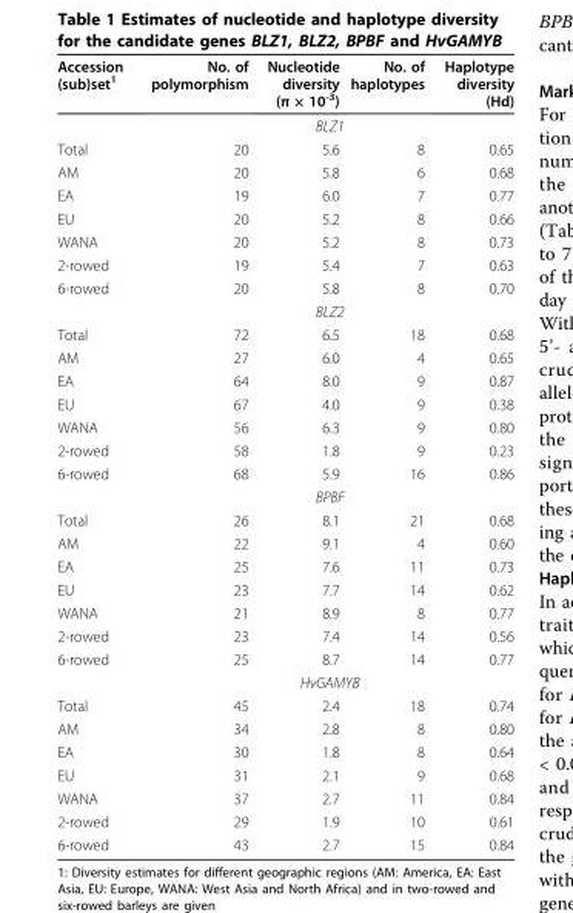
<table><thead><tr><td>Accession (sub)set<sup>1</sup></td><td>No. of polymorphism</td><td>Nucleotide diversity (π × 10<sup>-3</sup>)</td><td>No. of haplotypes</td><td>Haplotype diversity (Hd)</td></tr></thead><tbody><tr><td></td><td colspan="4">BLZ1</td></tr><tr><td>Total</td><td>20</td><td>5.6</td><td>8</td><td>0.65</td></tr><tr><td>AM</td><td>20</td><td>5.8</td><td>6</td><td>0.68</td></tr><tr><td>EA</td><td>19</td><td>6.0</td><td>7</td><td>0.77</td></tr><tr><td>EU</td><td>20</td><td>5.2</td><td>8</td><td>0.66</td></tr><tr><td>WANA</td><td>20</td><td>5.2</td><td>8</td><td>0.73</td></tr><tr><td>2-rowed</td><td>19</td><td>5.4</td><td>7</td><td>0.63</td></tr><tr><td rowspan="2">6-rowed</td><td>20</td><td>5.8</td><td>8</td><td>0.70</td></tr><tr><td colspan="4">BLZ2</td></tr><tr><td>Total</td><td>72</td><td>6.5</td><td>18</td><td>0.68</td></tr><tr><td>AM</td><td>27</td><td>6.0</td><td>4</td><td>0.65</td></tr><tr><td>EA</td><td>64</td><td>8.0</td><td>9</td><td>0.87</td></tr><tr><td>EU</td><td>67</td><td>4.0</td><td>9</td><td>0.38</td></tr><tr><td>WANA</td><td>56</td><td>6.3</td><td>9</td><td>0.80</td></tr><tr><td>2-rowed</td><td>58</td><td>1.8</td><td>9</td><td>0.23</td></tr><tr><td rowspan="2">6-rowed</td><td>68</td><td>5.9</td><td>16</td><td>0.86</td></tr><tr><td colspan="4">BPBF</td></tr><tr><td>Total</td><td>26</td><td>8.1</td><td>21</td><td>0.68</td></tr><tr><td>AM</td><td>22</td><td>9.1</td><td>4</td><td>0.60</td></tr><tr><td>EA</td><td>25</td><td>7.6</td><td>11</td><td>0.73</td></tr><tr><td>EU</td><td>23</td><td>7.7</td><td>14</td><td>0.62</td></tr><tr><td>WANA</td><td>21</td><td>8.9</td><td>8</td><td>0.77</td></tr><tr><td>2-rowed</td><td>23</td><td>7.4</td><td>14</td><td>0.56</td></tr><tr><td rowspan="2">6-rowed</td><td>25</td><td>8.7</td><td>14</td><td>0.77</td></tr><tr><td colspan="4">HvGAMYB</td></tr><tr><td>Total</td><td>45</td><td>2.4</td><td>18</td><td>0.74</td></tr><tr><td>AM</td><td>34</td><td>2.8</td><td>8</td><td>0.80</td></tr><tr><td>EA</td><td>30</td><td>1.8</td><td>8</td><td>0.64</td></tr><tr><td>EU</td><td>31</td><td>2.1</td><td>9</td><td>0.68</td></tr><tr><td>WANA</td><td>37</td><td>2.7</td><td>11</td><td>0.84</td></tr><tr><td>2-rowed</td><td>29</td><td>1.9</td><td>10</td><td>0.61</td></tr><tr><td>6-rowed</td><td>43</td><td>2.7</td><td>15</td><td>0.84</td></tr></tbody></table>